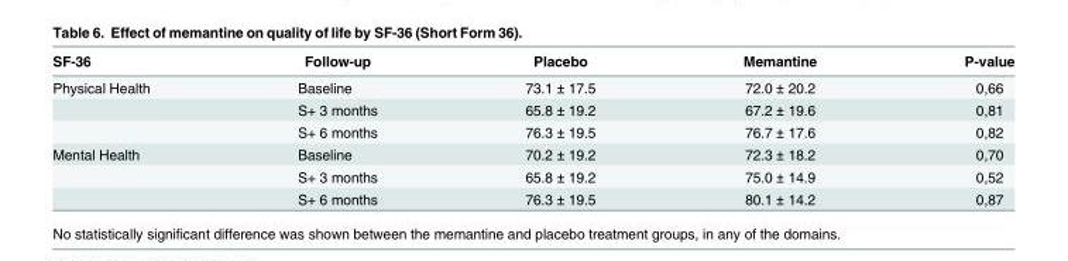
<table><thead><tr><td>SF-36</td><td>Follow-up</td><td>Placebo</td><td>Memantine</td><td>P-value</td></tr></thead><tbody><tr><td rowspan="3">Physical Health</td><td>Baseline</td><td>73.1 ± 17.5</td><td>72.0 ± 20.2</td><td>0,66</td></tr><tr><td>S+ 3 months</td><td>65.8 ± 19.2</td><td>67.2 ± 19.6</td><td>0,81</td></tr><tr><td>S+ 6 months</td><td>76.3 ± 19.5</td><td>76.7 ± 17.6</td><td>0,82</td></tr><tr><td rowspan="3">Mental Health</td><td>Baseline</td><td>70.2 ± 19.2</td><td>72.3 ± 18.2</td><td>0,70</td></tr><tr><td>S+ 3 months</td><td>65.8 ± 19.2</td><td>75.0 ± 14.9</td><td>0,52</td></tr><tr><td>S+ 6 months</td><td>76.3 ± 19.5</td><td>80.1 ± 14.2</td><td>0,87</td></tr></tbody></table>